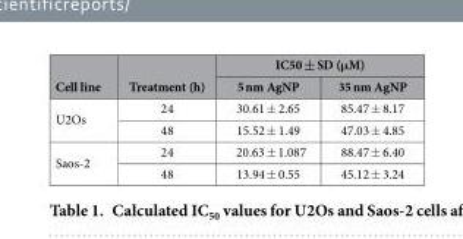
<table><thead><tr><td rowspan="2">Cell line</td><td rowspan="2">Treatment (h)</td><td colspan="2">IC50 ± SD (μM)</td></tr><tr><td>5 nm AgNP</td><td>35 nm AgNP</td></tr></thead><tbody><tr><td rowspan="2">U2Os</td><td>24</td><td>30.61 ± 2.65</td><td>85.47 ± 8.17</td></tr><tr><td>48</td><td>15.52 ± 1.49</td><td>47.03 ± 4.85</td></tr><tr><td rowspan="2">Saos-2</td><td>24</td><td>20.63 ± 1.087</td><td>88.47 ± 6.40</td></tr><tr><td>48</td><td>13.94 ± 0.55</td><td>45.12 ± 3.24</td></tr></tbody></table>